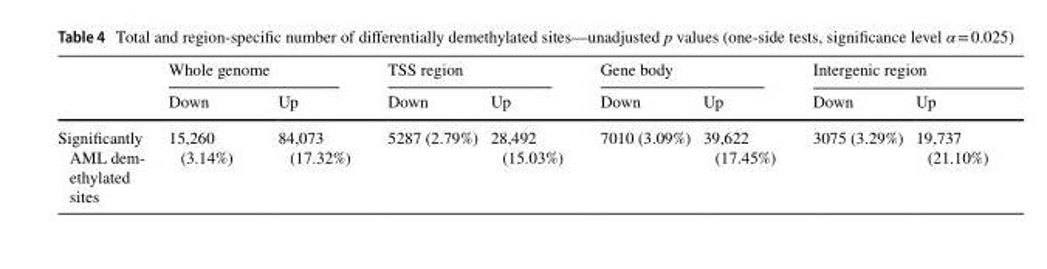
<table><thead><tr><td rowspan="2"></td><td colspan="2">Whole genome</td><td colspan="2">TSS region</td><td colspan="2">Gene body</td><td colspan="2">Intergenic region</td></tr><tr><td>Down</td><td>Up</td><td>Down</td><td>Up</td><td>Down</td><td>Up</td><td>Down</td><td>Up</td></tr></thead><tbody><tr><td>Significantly AML dem- ethylated sites</td><td>15,260 (3.14%)</td><td>84,073 (17.32%)</td><td>5287 (2.79%)</td><td>28,492 (15.03%)</td><td>7010 (3.09%)</td><td>39,622 (17.45%)</td><td>3075 (3.29%)</td><td>19,737 (21.10%)</td></tr></tbody></table>